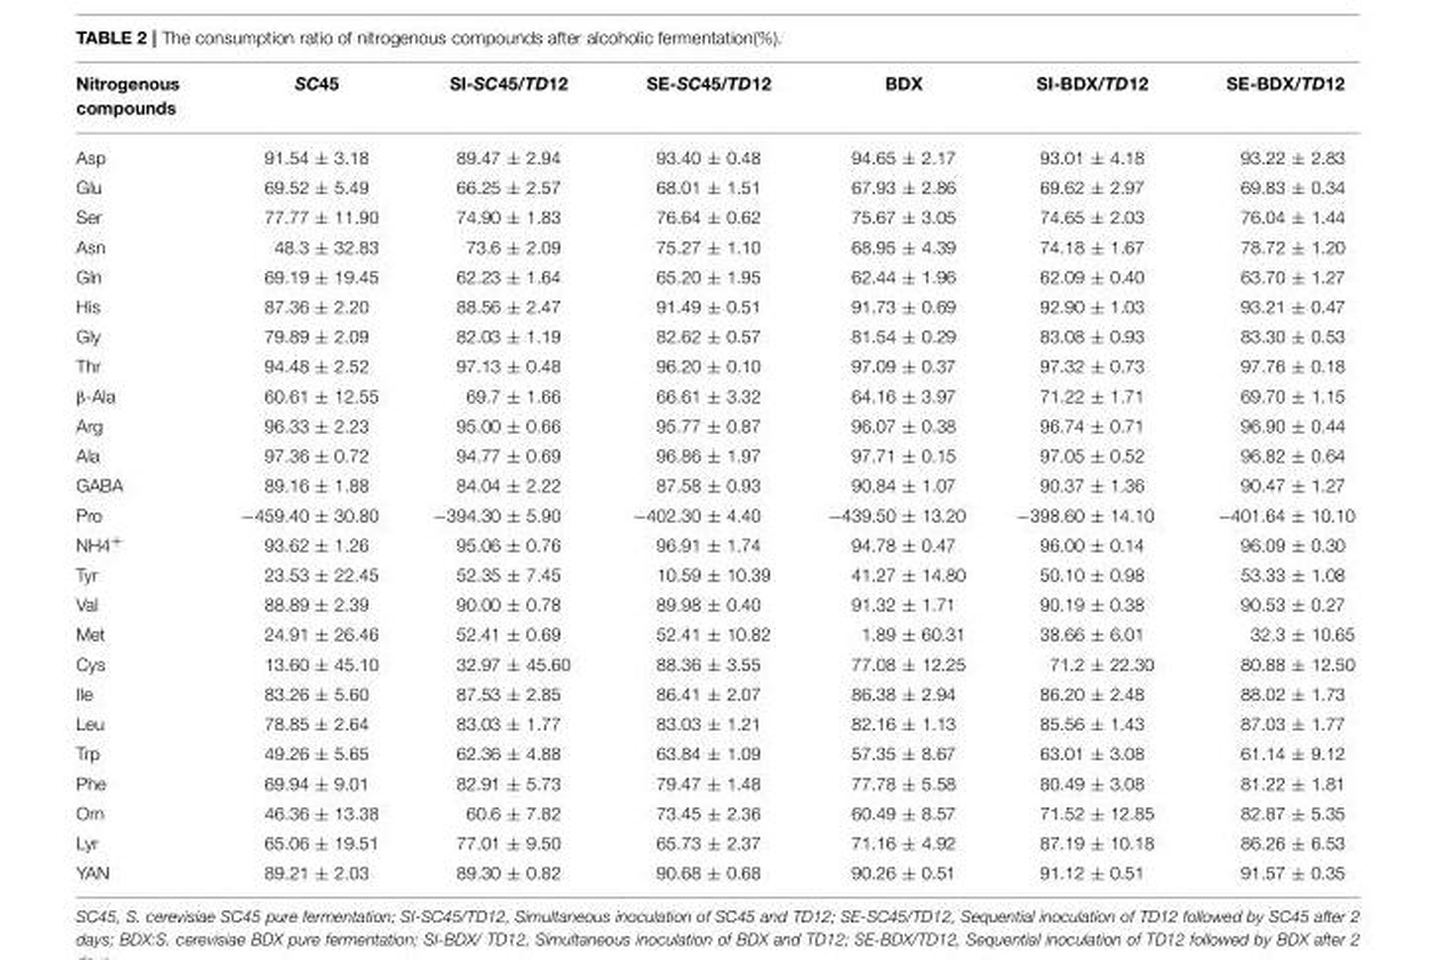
<table><thead><tr><td>Nitrogenous compounds</td><td>SC45</td><td>SI-SC45/TD12</td><td>SE-SC45/TD12</td><td>BDX</td><td>SI-BDX/TD12</td><td>SE-BDX/TD12</td></tr></thead><tbody><tr><td>Asp</td><td>91.54 ± 3.18</td><td>89.47 ± 2.94</td><td>93.40 ± 0.48</td><td>94.65 ± 2.17</td><td>93.01 ± 4.18</td><td>93.22 ± 2.83</td></tr><tr><td>Glu</td><td>69.52 ± 5.49</td><td>66.25 ± 2.57</td><td>68.01 ± 1.51</td><td>67.93 ± 2.86</td><td>69.62 ± 2.97</td><td>69.83 ± 0.34</td></tr><tr><td>Ser</td><td>77.77 ± 11.90</td><td>74.90 ± 1.83</td><td>76.64 ± 0.62</td><td>75.67 ± 3.05</td><td>74.65 ± 2.03</td><td>76.04 ± 1.44</td></tr><tr><td>Asn</td><td>48.3 ± 32.83</td><td>73.6 ± 2.09</td><td>75.27 ± 1.10</td><td>68.95 ± 4.39</td><td>74.18 ± 1.67</td><td>78.72 ± 1.20</td></tr><tr><td>Gln</td><td>69.19 ± 19.45</td><td>62.23 ± 1.64</td><td>65.20 ± 1.95</td><td>62.44 ± 1.96</td><td>62.09 ± 0.40</td><td>63.70 ± 1.27</td></tr><tr><td>His</td><td>87.36 ± 2.20</td><td>88.56 ± 2.47</td><td>91.49 ± 0.51</td><td>91.73 ± 0.69</td><td>92.90 ± 1.03</td><td>93.21 ± 0.47</td></tr><tr><td>Gly</td><td>79.89 ± 2.09</td><td>82.03 ± 1.19</td><td>82.62 ± 0.57</td><td>81.54 ± 0.29</td><td>83.08 ± 0.93</td><td>83.30 ± 0.53</td></tr><tr><td>Thr</td><td>94.48 ± 2.52</td><td>97.13 ± 0.48</td><td>96.20 ± 0.10</td><td>97.09 ± 0.37</td><td>97.32 ± 0.73</td><td>97.76 ± 0.18</td></tr><tr><td>β-Ala</td><td>60.61 ± 12.55</td><td>69.7 ± 1.66</td><td>66.61 ± 3.32</td><td>64.16 ± 3.97</td><td>71.22 ± 1.71</td><td>69.70 ± 1.15</td></tr><tr><td>Arg</td><td>96.33 ± 2.23</td><td>95.00 ± 0.66</td><td>95.77 ± 0.87</td><td>96.07 ± 0.38</td><td>96.74 ± 0.71</td><td>96.90 ± 0.44</td></tr><tr><td>Ala</td><td>97.36 ± 0.72</td><td>94.77 ± 0.69</td><td>96.86 ± 1.97</td><td>97.71 ± 0.15</td><td>97.05 ± 0.52</td><td>96.82 ± 0.64</td></tr><tr><td>GABA</td><td>89.16 ± 1.88</td><td>84.04 ± 2.22</td><td>87.58 ± 0.93</td><td>90.84 ± 1.07</td><td>90.37 ± 1.36</td><td>90.47 ± 1.27</td></tr><tr><td>Pro</td><td>−459.40 ± 30.80</td><td>−394.30 ± 5.90</td><td>−402.30 ± 4.40</td><td>−439.50 ± 13.20</td><td>−398.60 ± 14.10</td><td>−401.64 ± 10.10</td></tr><tr><td>NH4<sup>+</sup></td><td>93.62 ± 1.26</td><td>95.06 ± 0.76</td><td>96.91 ± 1.74</td><td>94.78 ± 0.47</td><td>96.00 ± 0.14</td><td>96.09 ± 0.30</td></tr><tr><td>Tyr</td><td>23.53 ± 22.45</td><td>52.35 ± 7.45</td><td>10.59 ± 10.39</td><td>41.27 ± 14.80</td><td>50.10 ± 0.98</td><td>53.33 ± 1.08</td></tr><tr><td>Val</td><td>88.89 ± 2.39</td><td>90.00 ± 0.78</td><td>89.98 ± 0.40</td><td>91.32 ± 1.71</td><td>90.19 ± 0.38</td><td>90.53 ± 0.27</td></tr><tr><td>Met</td><td>24.91 ± 26.46</td><td>52.41 ± 0.69</td><td>52.41 ± 10.82</td><td>1.89 ± 60.31</td><td>38.66 ± 6.01</td><td>32.3 ± 10.65</td></tr><tr><td>Cys</td><td>13.60 ± 45.10</td><td>32.97 ± 45.60</td><td>88.36 ± 3.55</td><td>77.08 ± 12.25</td><td>71.2 ± 22.30</td><td>80.88 ± 12.50</td></tr><tr><td>Ile</td><td>83.26 ± 5.60</td><td>87.53 ± 2.85</td><td>86.41 ± 2.07</td><td>86.38 ± 2.94</td><td>86.20 ± 2.48</td><td>88.02 ± 1.73</td></tr><tr><td>Leu</td><td>78.85 ± 2.64</td><td>83.03 ± 1.77</td><td>83.03 ± 1.21</td><td>82.16 ± 1.13</td><td>85.56 ± 1.43</td><td>87.03 ± 1.77</td></tr><tr><td>Trp</td><td>49.26 ± 5.65</td><td>62.36 ± 4.88</td><td>63.84 ± 1.09</td><td>57.35 ± 8.67</td><td>63.01 ± 3.08</td><td>61.14 ± 9.12</td></tr><tr><td>Phe</td><td>69.94 ± 9.01</td><td>82.91 ± 5.73</td><td>79.47 ± 1.48</td><td>77.78 ± 5.58</td><td>80.49 ± 3.08</td><td>81.22 ± 1.81</td></tr><tr><td>Orn</td><td>46.36 ± 13.38</td><td>60.6 ± 7.82</td><td>73.45 ± 2.36</td><td>60.49 ± 8.57</td><td>71.52 ± 12.85</td><td>82.87 ± 5.35</td></tr><tr><td>Lyr</td><td>65.06 ± 19.51</td><td>77.01 ± 9.50</td><td>65.73 ± 2.37</td><td>71.16 ± 4.92</td><td>87.19 ± 10.18</td><td>86.26 ± 6.53</td></tr><tr><td>YAN</td><td>89.21 ± 2.03</td><td>89.30 ± 0.82</td><td>90.68 ± 0.68</td><td>90.26 ± 0.51</td><td>91.12 ± 0.51</td><td>91.57 ± 0.35</td></tr></tbody></table>